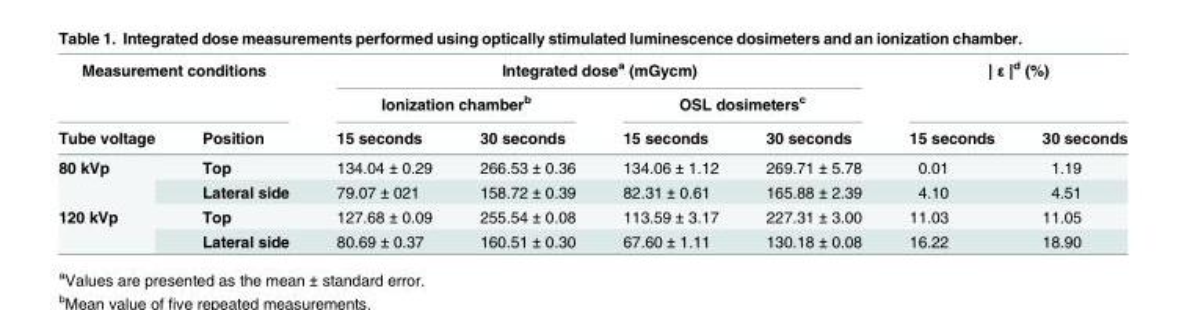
<table><thead><tr><td rowspan="2" colspan="2">Measurement conditions</td><td colspan="4">Integrated dose<sup>a</sup> (mGycm)</td><td rowspan="2" colspan="2">| ε |<sup>d</sup> (%)</td></tr><tr><td colspan="2">Ionization chamber<sup>b</sup></td><td colspan="2">OSL dosimeters<sup>c</sup></td></tr><tr><td>Tube voltage</td><td>Position</td><td>15 seconds</td><td>30 seconds</td><td>15 seconds</td><td>30 seconds</td><td>15 seconds</td><td>30 seconds</td></tr></thead><tbody><tr><td rowspan="2">80 kVp</td><td>Top</td><td>134.04 ± 0.29</td><td>266.53 ± 0.36</td><td>134.06 ± 1.12</td><td>269.71 ± 5.78</td><td>0.01</td><td>1.19</td></tr><tr><td>Lateral side</td><td>79.07 ± 021</td><td>158.72 ± 0.39</td><td>82.31 ± 0.61</td><td>165.88 ± 2.39</td><td>4.10</td><td>4.51</td></tr><tr><td rowspan="2">120 kVp</td><td>Top</td><td>127.68 ± 0.09</td><td>255.54 ± 0.08</td><td>113.59 ± 3.17</td><td>227.31 ± 3.00</td><td>11.03</td><td>11.05</td></tr><tr><td>Lateral side</td><td>80.69 ± 0.37</td><td>160.51 ± 0.30</td><td>67.60 ± 1.11</td><td>130.18 ± 0.08</td><td>16.22</td><td>18.90</td></tr></tbody></table>